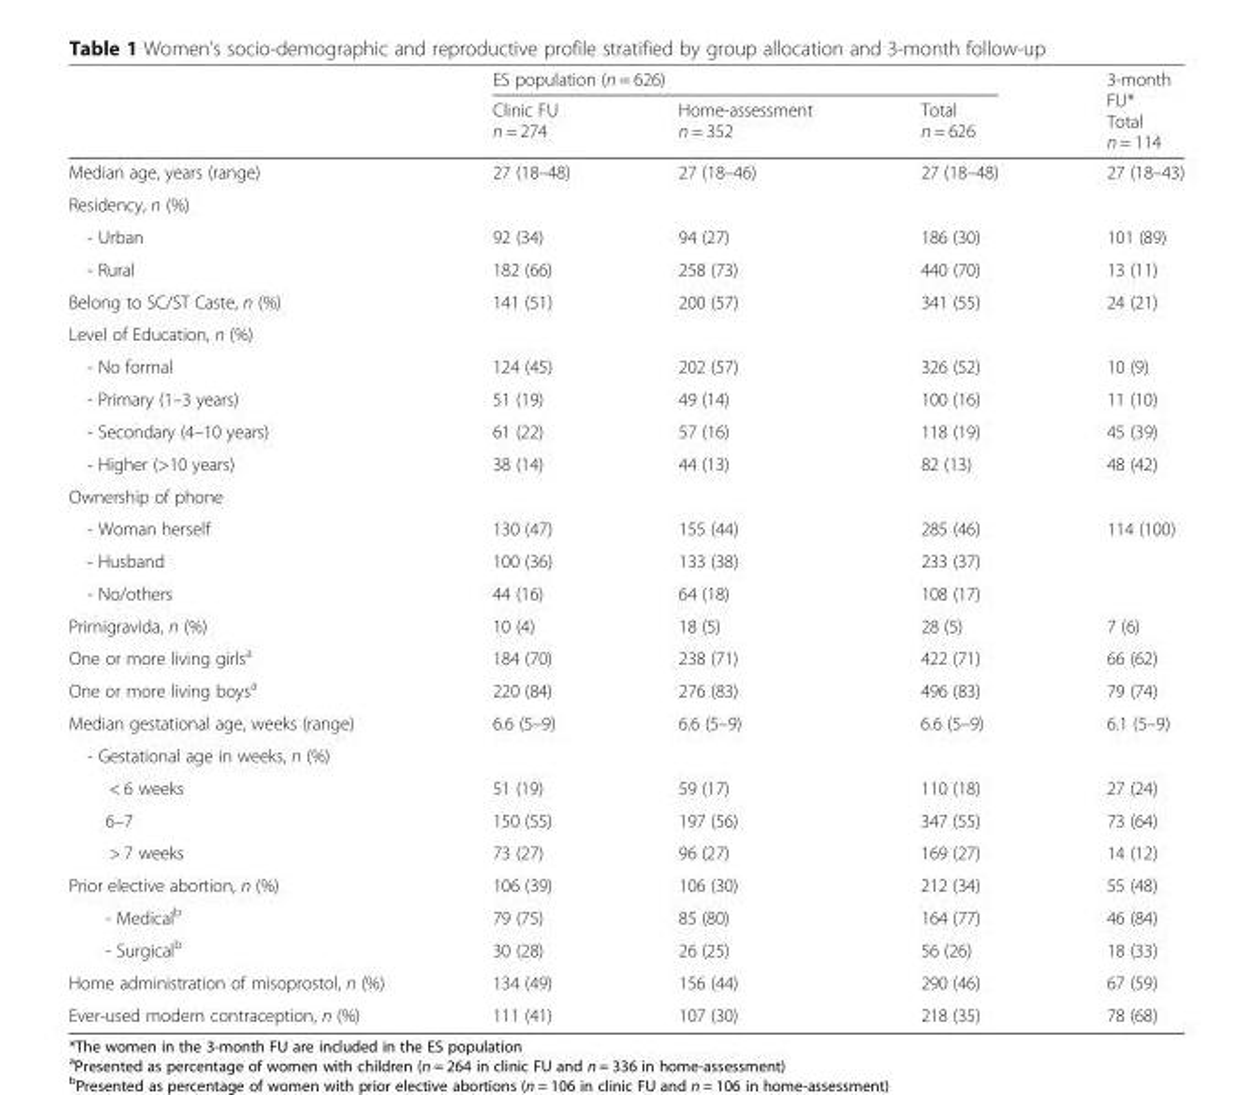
<table><thead><tr><td rowspan="2"></td><td colspan="3">ES population (n = 626)</td><td rowspan="2">3-month FU* Total n = 114</td></tr><tr><td>Clinic FU n = 274</td><td>Home-assessment n = 352</td><td>Total n = 626</td></tr></thead><tbody><tr><td>Median age, years (range)</td><td>27 (18–48)</td><td>27 (18–46)</td><td>27 (18–48)</td><td>27 (18–43)</td></tr><tr><td colspan="5">Residency, n (%)</td></tr><tr><td>- Urban</td><td>92 (34)</td><td>94 (27)</td><td>186 (30)</td><td>101 (89)</td></tr><tr><td>- Rural</td><td>182 (66)</td><td>258 (73)</td><td>440 (70)</td><td>13 (11)</td></tr><tr><td>Belong to SC/ST Caste, n (%)</td><td>141 (51)</td><td>200 (57)</td><td>341 (55)</td><td>24 (21)</td></tr><tr><td colspan="5">Level of Education, n (%)</td></tr><tr><td>- No formal</td><td>124 (45)</td><td>202 (57)</td><td>326 (52)</td><td>10 (9)</td></tr><tr><td>- Primary (1–3 years)</td><td>51 (19)</td><td>49 (14)</td><td>100 (16)</td><td>11 (10)</td></tr><tr><td>- Secondary (4–10 years)</td><td>61 (22)</td><td>57 (16)</td><td>118 (19)</td><td>45 (39)</td></tr><tr><td>- Higher (&gt;10 years)</td><td>38 (14)</td><td>44 (13)</td><td>82 (13)</td><td>48 (42)</td></tr><tr><td colspan="5">Ownership of phone</td></tr><tr><td>- Woman herself</td><td>130 (47)</td><td>155 (44)</td><td>285 (46)</td><td>114 (100)</td></tr><tr><td>- Husband</td><td>100 (36)</td><td>133 (38)</td><td>233 (37)</td><td></td></tr><tr><td>- No/others</td><td>44 (16)</td><td>64 (18)</td><td>108 (17)</td><td></td></tr><tr><td>Primigravida, n (%)</td><td>10 (4)</td><td>18 (5)</td><td>28 (5)</td><td>7 (6)</td></tr><tr><td>One or more living girls<sup>a</sup></td><td>184 (70)</td><td>238 (71)</td><td>422 (71)</td><td>66 (62)</td></tr><tr><td>One or more living boys<sup>a</sup></td><td>220 (84)</td><td>276 (83)</td><td>496 (83)</td><td>79 (74)</td></tr><tr><td>Median gestational age, weeks (range)</td><td>6.6 (5–9)</td><td>6.6 (5–9)</td><td>6.6 (5–9)</td><td>6.1 (5–9)</td></tr><tr><td colspan="5">- Gestational age in weeks, n (%)</td></tr><tr><td>&lt; 6 weeks</td><td>51 (19)</td><td>59 (17)</td><td>110 (18)</td><td>27 (24)</td></tr><tr><td>6–7</td><td>150 (55)</td><td>197 (56)</td><td>347 (55)</td><td>73 (64)</td></tr><tr><td>&gt; 7 weeks</td><td>73 (27)</td><td>96 (27)</td><td>169 (27)</td><td>14 (12)</td></tr><tr><td>Prior elective abortion, n (%)</td><td>106 (39)</td><td>106 (30)</td><td>212 (34)</td><td>55 (48)</td></tr><tr><td>- Medical<sup>b</sup></td><td>79 (75)</td><td>85 (80)</td><td>164 (77)</td><td>46 (84)</td></tr><tr><td>- Surgical<sup>b</sup></td><td>30 (28)</td><td>26 (25)</td><td>56 (26)</td><td>18 (33)</td></tr><tr><td>Home administration of misoprostol, n (%)</td><td>134 (49)</td><td>156 (44)</td><td>290 (46)</td><td>67 (59)</td></tr><tr><td>Ever-used modern contraception, n (%)</td><td>111 (41)</td><td>107 (30)</td><td>218 (35)</td><td>78 (68)</td></tr></tbody></table>